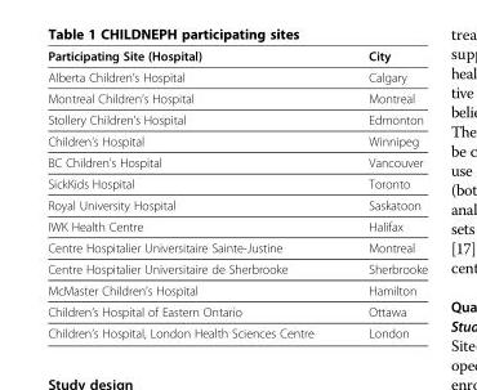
<table><thead><tr><td>Participating Site (Hospital)</td><td>City</td></tr></thead><tbody><tr><td>Alberta Children’s Hospital</td><td>Calgary</td></tr><tr><td>Montreal Children’s Hospital</td><td>Montreal</td></tr><tr><td>Stollery Children’s Hospital</td><td>Edmonton</td></tr><tr><td>Children’s Hospital</td><td>Winnipeg</td></tr><tr><td>BC Children’s Hospital</td><td>Vancouver</td></tr><tr><td>SickKids Hospital</td><td>Toronto</td></tr><tr><td>Royal University Hospital</td><td>Saskatoon</td></tr><tr><td>IWK Health Centre</td><td>Halifax</td></tr><tr><td>Centre Hospitalier Universitaire Sainte-Justine</td><td>Montreal</td></tr><tr><td>Centre Hospitalier Universitaire de Sherbrooke</td><td>Sherbrooke</td></tr><tr><td>McMaster Children’s Hospital</td><td>Hamilton</td></tr><tr><td>Children’s Hospital of Eastern Ontario</td><td>Ottawa</td></tr><tr><td>Children’s Hospital, London Health Sciences Centre</td><td>London</td></tr></tbody></table>